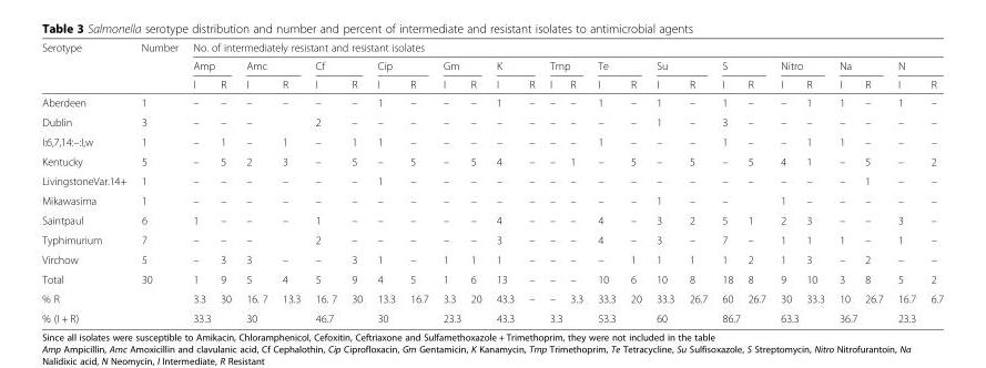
<table><thead><tr><td rowspan="3">Serotype</td><td rowspan="3">Number</td><td colspan="26">No. of intermediately resistant and resistant isolates</td></tr><tr><td colspan="2">Amp</td><td colspan="2">Amc</td><td colspan="2">Cf</td><td colspan="2">Cip</td><td colspan="2">Gm</td><td colspan="2">K</td><td colspan="2">Tmp</td><td colspan="2">Te</td><td colspan="2">Su</td><td colspan="2">S</td><td colspan="2">Nitro</td><td colspan="2">Na</td><td colspan="2">N</td></tr><tr><td>I</td><td>R</td><td>I</td><td>R</td><td>I</td><td>R</td><td>I</td><td>R</td><td>I</td><td>R</td><td>I</td><td>R</td><td>I</td><td>R</td><td>I</td><td>R</td><td>I</td><td>R</td><td>I</td><td>R</td><td>I</td><td>R</td><td>I</td><td>R</td><td>I</td><td>R</td></tr></thead><tbody><tr><td>Aberdeen</td><td>1</td><td>–</td><td>–</td><td>–</td><td>–</td><td>–</td><td>–</td><td>1</td><td>–</td><td>–</td><td>–</td><td>1</td><td>–</td><td>–</td><td>–</td><td>1</td><td>–</td><td>1</td><td>–</td><td>1</td><td>–</td><td>–</td><td>1</td><td>1</td><td>–</td><td>1</td><td>–</td></tr><tr><td>Dublin</td><td>3</td><td>–</td><td>–</td><td>–</td><td></td><td>2</td><td>–</td><td>–</td><td>–</td><td>–</td><td>–</td><td>–</td><td>–</td><td>–</td><td>–</td><td>–</td><td>–</td><td>1</td><td>–</td><td>3</td><td>–</td><td>–</td><td>–</td><td>–</td><td>–</td><td>–</td><td>–</td></tr><tr><td>I:6,7,14:–:I,w</td><td>1</td><td>–</td><td>1</td><td>–</td><td>1</td><td>–</td><td>1</td><td>1</td><td>–</td><td>–</td><td>–</td><td>–</td><td>–</td><td>–</td><td>–</td><td>1</td><td>–</td><td>–</td><td>–</td><td>1</td><td>–</td><td>–</td><td>1</td><td>1</td><td>–</td><td>–</td><td>–</td></tr><tr><td>Kentucky</td><td>5</td><td>–</td><td>5</td><td>2</td><td>3</td><td>–</td><td>5</td><td>–</td><td>5</td><td>–</td><td>5</td><td>4</td><td>–</td><td>–</td><td>1</td><td>–</td><td>5</td><td>–</td><td>5</td><td>–</td><td>5</td><td>4</td><td>1</td><td>–</td><td>5</td><td>–</td><td>2</td></tr><tr><td>LivingstoneVar.14+</td><td>1</td><td>–</td><td>–</td><td>–</td><td>–</td><td>–</td><td>–</td><td>1</td><td>–</td><td>–</td><td>–</td><td>–</td><td>–</td><td>–</td><td>–</td><td>–</td><td>–</td><td>–</td><td>–</td><td>–</td><td>–</td><td>–</td><td>–</td><td>–</td><td>1</td><td>–</td><td>–</td></tr><tr><td>Mikawasima</td><td>1</td><td>–</td><td>–</td><td>–</td><td>–</td><td>–</td><td>–</td><td>–</td><td>–</td><td>–</td><td>–</td><td>–</td><td>–</td><td>–</td><td>–</td><td>–</td><td>–</td><td>1</td><td>–</td><td>–</td><td></td><td>1</td><td>–</td><td>–</td><td>–</td><td>–</td><td>–</td></tr><tr><td>Saintpaul</td><td>6</td><td>1</td><td>–</td><td>–</td><td>–</td><td>1</td><td>–</td><td>–</td><td>–</td><td>–</td><td>–</td><td>4</td><td>–</td><td>–</td><td>–</td><td>4</td><td>–</td><td>3</td><td>2</td><td>5</td><td>1</td><td>2</td><td>3</td><td>–</td><td>–</td><td>3</td><td>–</td></tr><tr><td>Typhimurium</td><td>7</td><td>–</td><td>–</td><td>–</td><td></td><td>2</td><td>–</td><td>–</td><td>–</td><td>–</td><td>–</td><td>3</td><td>–</td><td>–</td><td>–</td><td>4</td><td>–</td><td>3</td><td>–</td><td>7</td><td>–</td><td>1</td><td>1</td><td>1</td><td>–</td><td>1</td><td>–</td></tr><tr><td>Virchow</td><td>5</td><td>–</td><td>3</td><td>3</td><td>–</td><td>–</td><td>3</td><td>1</td><td>–</td><td>1</td><td>1</td><td>1</td><td>–</td><td>–</td><td>–</td><td>–</td><td>1</td><td>1</td><td>1</td><td>1</td><td>2</td><td>1</td><td>3</td><td>–</td><td>2</td><td>–</td><td>–</td></tr><tr><td>Total</td><td>30</td><td>1</td><td>9</td><td>5</td><td>4</td><td>5</td><td>9</td><td>4</td><td>5</td><td>1</td><td>6</td><td>13</td><td>–</td><td>–</td><td>–</td><td>10</td><td>6</td><td>10</td><td>8</td><td>18</td><td>8</td><td>9</td><td>10</td><td>3</td><td>8</td><td>5</td><td>2</td></tr><tr><td colspan="2">% R</td><td>3.3</td><td>30</td><td>16. 7</td><td>13.3</td><td>16. 7</td><td>30</td><td>13.3</td><td>16.7</td><td>3.3</td><td>20</td><td>43.3</td><td>–</td><td>–</td><td>3.3</td><td>33.3</td><td>20</td><td>33.3</td><td>26.7</td><td>60</td><td>26.7</td><td>30</td><td>33.3</td><td>10</td><td>26.7</td><td>16.7</td><td>6.7</td></tr><tr><td colspan="2">% (I + R)</td><td colspan="2">33.3</td><td colspan="2">30</td><td colspan="2">46.7</td><td colspan="2">30</td><td colspan="2">23.3</td><td colspan="2">43.3</td><td colspan="2">3.3</td><td colspan="2">53.3</td><td colspan="2">60</td><td colspan="2">86.7</td><td colspan="2">63.3</td><td colspan="2">36.7</td><td colspan="2">23.3</td></tr></tbody></table>